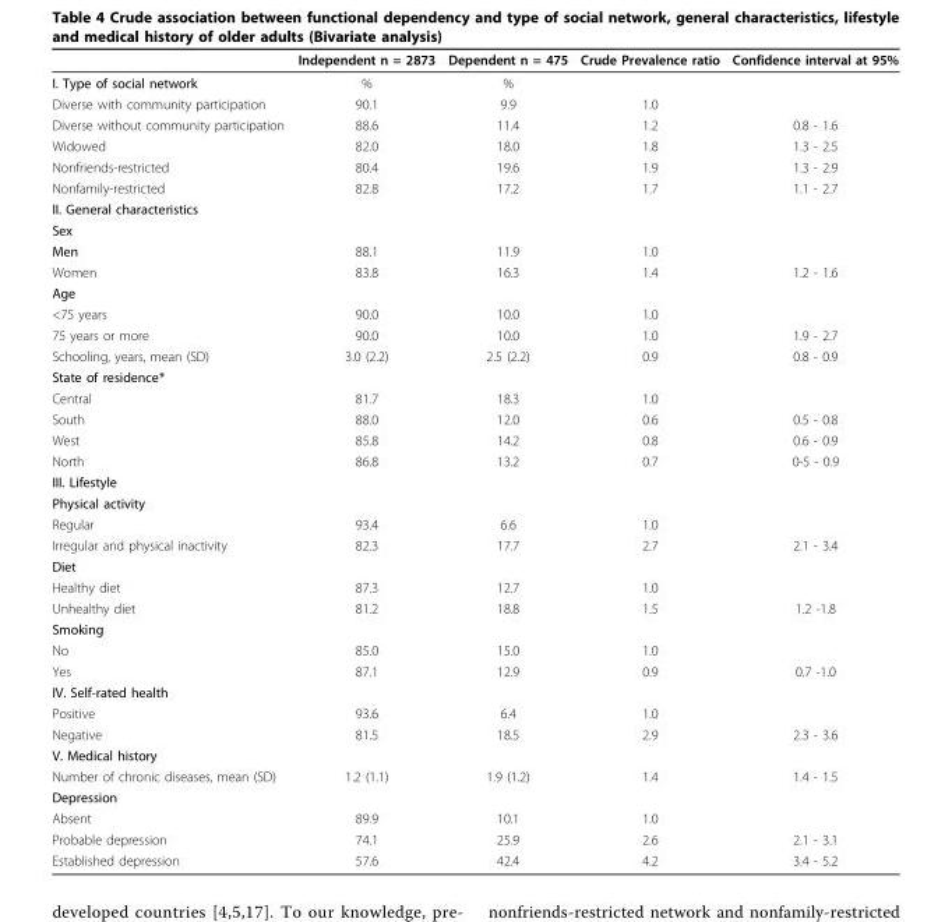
<table><thead><tr><td></td><td>Independent n = 2873</td><td>Dependent n = 475</td><td>Crude Prevalence ratio</td><td>Confidence interval at 95%</td></tr></thead><tbody><tr><td>I. Type of social network</td><td>%</td><td>%</td><td></td><td></td></tr><tr><td>Diverse with community participation</td><td>90.1</td><td>9.9</td><td>1.0</td><td></td></tr><tr><td>Diverse without community participation</td><td>88.6</td><td>11.4</td><td>1.2</td><td>0.8 - 1.6</td></tr><tr><td>Widowed</td><td>82.0</td><td>18.0</td><td>1.8</td><td>1.3 - 2.5</td></tr><tr><td>Nonfriends-restricted</td><td>80.4</td><td>19.6</td><td>1.9</td><td>1.3 - 2.9</td></tr><tr><td>Nonfamily-restricted</td><td>82.8</td><td>17.2</td><td>1.7</td><td>1.1 - 2.7</td></tr><tr><td colspan="5">II. General characteristics</td></tr><tr><td colspan="5">Sex</td></tr><tr><td>Men</td><td>88.1</td><td>11.9</td><td>1.0</td><td></td></tr><tr><td>Women</td><td>83.8</td><td>16.3</td><td>1.4</td><td>1.2 - 1.6</td></tr><tr><td colspan="5">Age</td></tr><tr><td>&lt;75 years</td><td>90.0</td><td>10.0</td><td>1.0</td><td></td></tr><tr><td>75 years or more</td><td>90.0</td><td>10.0</td><td>1.0</td><td>1.9 - 2.7</td></tr><tr><td>Schooling, years, mean (SD)</td><td>3.0 (2.2)</td><td>2.5 (2.2)</td><td>0.9</td><td>0.8 - 0.9</td></tr><tr><td colspan="5">State of residence*</td></tr><tr><td>Central</td><td>81.7</td><td>18.3</td><td>1.0</td><td></td></tr><tr><td>South</td><td>88.0</td><td>12.0</td><td>0.6</td><td>0.5 - 0.8</td></tr><tr><td>West</td><td>85.8</td><td>14.2</td><td>0.8</td><td>0.6 - 0.9</td></tr><tr><td>North</td><td>86.8</td><td>13.2</td><td>0.7</td><td>0-5 - 0.9</td></tr><tr><td colspan="5">III. Lifestyle</td></tr><tr><td colspan="5">Physical activity</td></tr><tr><td>Regular</td><td>93.4</td><td>6.6</td><td>1.0</td><td></td></tr><tr><td>Irregular and physical inactivity</td><td>82.3</td><td>17.7</td><td>2.7</td><td>2.1 - 3.4</td></tr><tr><td colspan="5">Diet</td></tr><tr><td>Healthy diet</td><td>87.3</td><td>12.7</td><td>1.0</td><td></td></tr><tr><td>Unhealthy diet</td><td>81.2</td><td>18.8</td><td>1.5</td><td>1.2 -1.8</td></tr><tr><td colspan="5">Smoking</td></tr><tr><td>No</td><td>85.0</td><td>15.0</td><td>1.0</td><td></td></tr><tr><td>Yes</td><td>87.1</td><td>12.9</td><td>0.9</td><td>0.7 -1.0</td></tr><tr><td colspan="5">IV. Self-rated health</td></tr><tr><td>Positive</td><td>93.6</td><td>6.4</td><td>1.0</td><td></td></tr><tr><td>Negative</td><td>81.5</td><td>18.5</td><td>2.9</td><td>2.3 - 3.6</td></tr><tr><td colspan="5">V. Medical history</td></tr><tr><td>Number of chronic diseases, mean (SD)</td><td>1.2 (1.1)</td><td>1.9 (1.2)</td><td>1.4</td><td>1.4 - 1.5</td></tr><tr><td colspan="5">Depression</td></tr><tr><td>Absent</td><td>89.9</td><td>10.1</td><td>1.0</td><td></td></tr><tr><td>Probable depression</td><td>74.1</td><td>25.9</td><td>2.6</td><td>2.1 - 3.1</td></tr><tr><td>Established depression</td><td>57.6</td><td>42.4</td><td>4.2</td><td>3.4 - 5.2</td></tr></tbody></table>